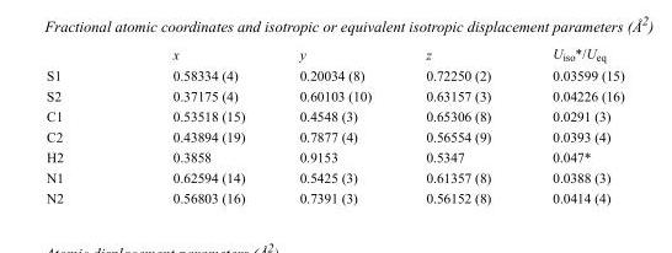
<table><thead><tr><td></td><td>x</td><td>y</td><td>z</td><td>U<sub>iso</sub>*/U<sub>eq</sub></td></tr></thead><tbody><tr><td>S1</td><td>0.58334 (4)</td><td>0.20034 (8)</td><td>0.72250 (2)</td><td>0.03599 (15)</td></tr><tr><td>S2</td><td>0.37175 (4)</td><td>0.60103 (10)</td><td>0.63157 (3)</td><td>0.04226 (16)</td></tr><tr><td>C1</td><td>0.53518 (15)</td><td>0.4548 (3)</td><td>0.65306 (8)</td><td>0.0291 (3)</td></tr><tr><td>C2</td><td>0.43894 (19)</td><td>0.7877 (4)</td><td>0.56554 (9)</td><td>0.0393 (4)</td></tr><tr><td>H2</td><td>0.3858</td><td>0.9153</td><td>0.5347</td><td>0.047*</td></tr><tr><td>N1</td><td>0.62594 (14)</td><td>0.5425 (3)</td><td>0.61357 (8)</td><td>0.0388 (3)</td></tr><tr><td>N2</td><td>0.56803 (16)</td><td>0.7391 (3)</td><td>0.56152 (8)</td><td>0.0414 (4)</td></tr></tbody></table>